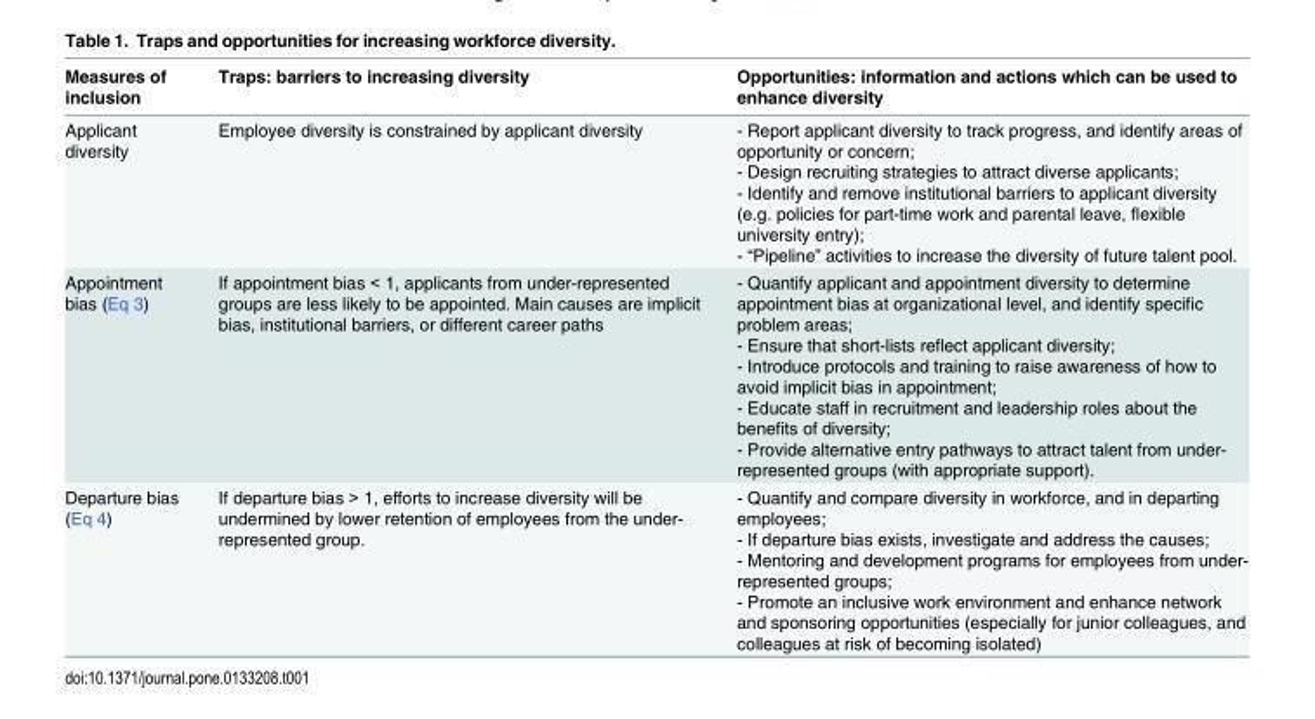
<table><thead><tr><td>Measures of inclusion</td><td>Traps: barriers to increasing diversity</td><td>Opportunities: information and actions which can be used to enhance diversity</td></tr></thead><tbody><tr><td>Applicant diversity</td><td>Employee diversity is constrained by applicant diversity</td><td>- Report applicant diversity to track progress, and identify areas of opportunity or concern; - Design recruiting strategies to attract diverse applicants; - Identify and remove institutional barriers to applicant diversity (e.g. policies for part-time work and parental leave, flexible university entry); - “Pipeline” activities to increase the diversity of future talent pool.</td></tr><tr><td>Appointment bias (Eq 3)</td><td>If appointment bias &lt; 1, applicants from under-represented groups are less likely to be appointed. Main causes are implicit bias, institutional barriers, or different career paths</td><td>- Quantify applicant and appointment diversity to determine appointment bias at organizational level, and identify specific problem areas; - Ensure that short-lists reflect applicant diversity; - Introduce protocols and training to raise awareness of how to avoid implicit bias in appointment; - Educate staff in recruitment and leadership roles about the benefits of diversity; - Provide alternative entry pathways to attract talent from under- represented groups (with appropriate support).</td></tr><tr><td>Departure bias (Eq 4)</td><td>If departure bias &gt; 1, efforts to increase diversity will be undermined by lower retention of employees from the under- represented group.</td><td>- Quantify and compare diversity in workforce, and in departing employees; - If departure bias exists, investigate and address the causes; - Mentoring and development programs for employees from under- represented groups; - Promote an inclusive work environment and enhance network and sponsoring opportunities (especially for junior colleagues, and colleagues at risk of becoming isolated)</td></tr></tbody></table>